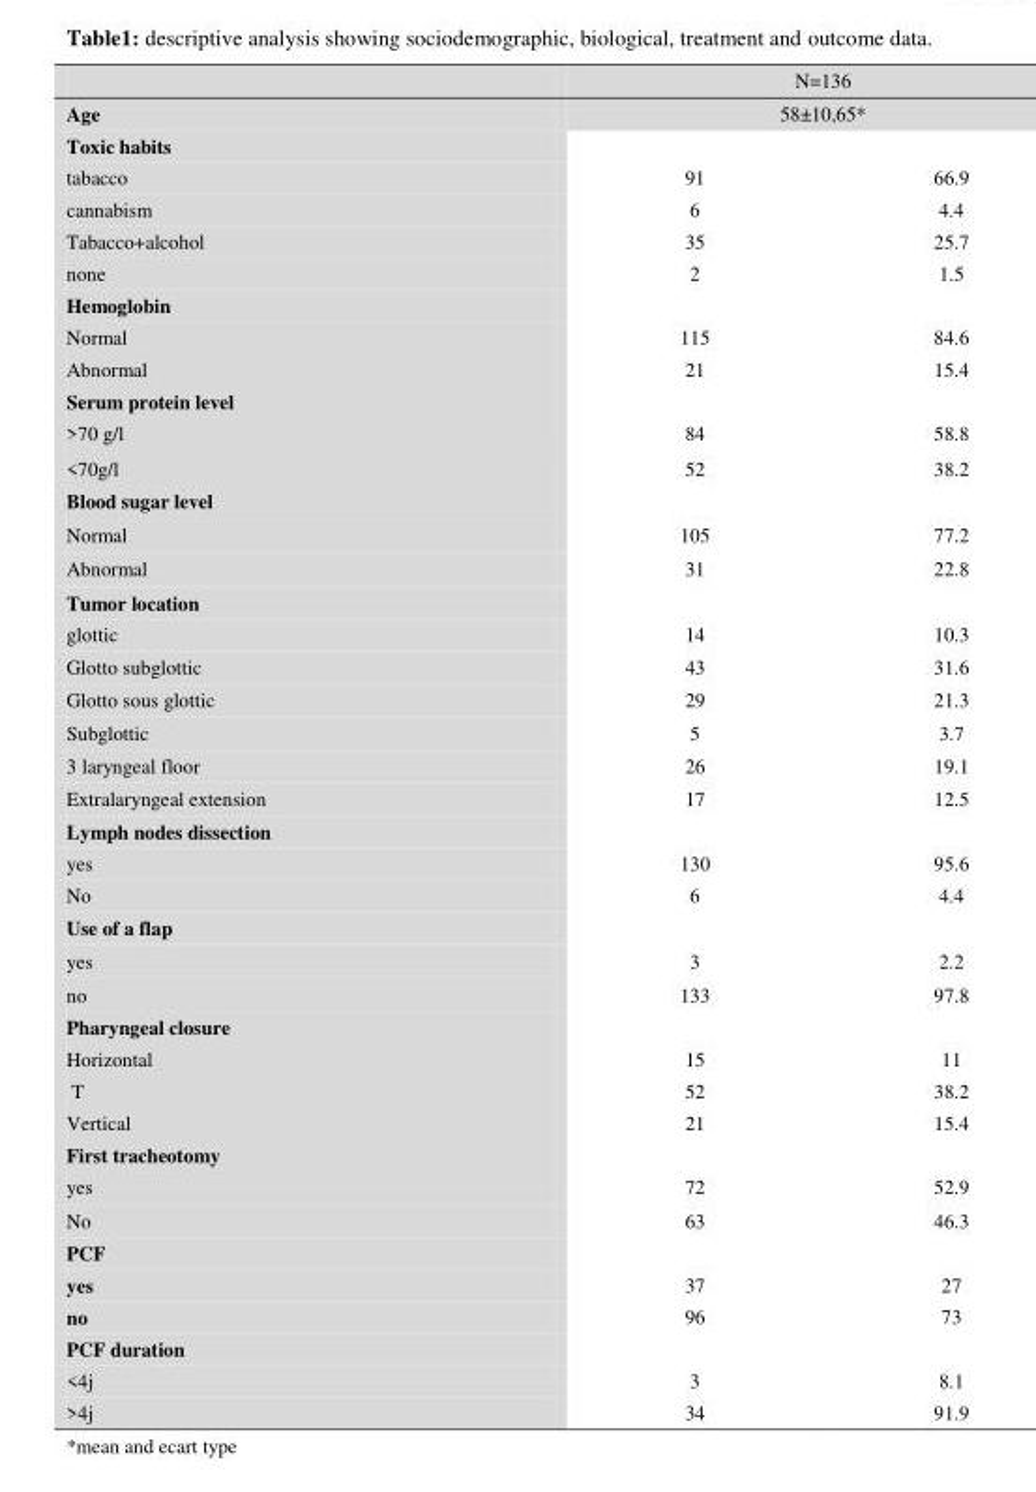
<table><thead><tr><td rowspan="3">Age Toxic habits</td><td rowspan="2" colspan="2">N=136 58±10,65*</td></tr><tr></tr><tr><td></td><td></td></tr></thead><tbody><tr><td>tabacco</td><td>91</td><td>66.9</td></tr><tr><td>cannabism</td><td>6</td><td>4.4</td></tr><tr><td>Tabacco+alcohol</td><td>35</td><td>25.7</td></tr><tr><td>none</td><td>2</td><td>1.5</td></tr><tr><td colspan="3">Hemoglobin</td></tr><tr><td>Normal</td><td>115</td><td>84.6</td></tr><tr><td>Abnormal</td><td>21</td><td>15.4</td></tr><tr><td colspan="3">Serum protein level</td></tr><tr><td>&gt;70 g/l</td><td>84</td><td>58.8</td></tr><tr><td>&lt;70g/l</td><td>52</td><td>38.2</td></tr><tr><td colspan="3">Blood sugar level</td></tr><tr><td>Normal</td><td>105</td><td>77.2</td></tr><tr><td>Abnormal</td><td>31</td><td>22.8</td></tr><tr><td colspan="3">Tumor location</td></tr><tr><td>glottic</td><td>14</td><td>10.3</td></tr><tr><td>Glotto subglottic</td><td>43</td><td>31.6</td></tr><tr><td>Glotto sous glottic</td><td>29</td><td>21.3</td></tr><tr><td>Subglottic</td><td>5</td><td>3.7</td></tr><tr><td>3 laryngeal floor</td><td>26</td><td>19.1</td></tr><tr><td>Extralaryngeal extension</td><td>17</td><td>12.5</td></tr><tr><td colspan="3">Lymph nodes dissection</td></tr><tr><td>yes</td><td>130</td><td>95.6</td></tr><tr><td>No</td><td>6</td><td>4.4</td></tr><tr><td colspan="3">Use of a flap</td></tr><tr><td>yes</td><td>3</td><td>2.2</td></tr><tr><td>no</td><td>133</td><td>97.8</td></tr><tr><td colspan="3">Pharyngeal closure</td></tr><tr><td>Horizontal</td><td>15</td><td>11</td></tr><tr><td>T</td><td>52</td><td>38.2</td></tr><tr><td>Vertical</td><td>21</td><td>15.4</td></tr><tr><td colspan="3">First tracheotomy</td></tr><tr><td>yes</td><td>72</td><td>52.9</td></tr><tr><td>No</td><td>63</td><td>46.3</td></tr><tr><td colspan="3">PCF</td></tr><tr><td>yes</td><td>37</td><td>27</td></tr><tr><td>no</td><td>96</td><td>73</td></tr><tr><td colspan="3">PCF duration</td></tr><tr><td>&lt;4j</td><td>3</td><td>8.1</td></tr><tr><td>&gt;4j</td><td>34</td><td>91.9</td></tr></tbody></table>